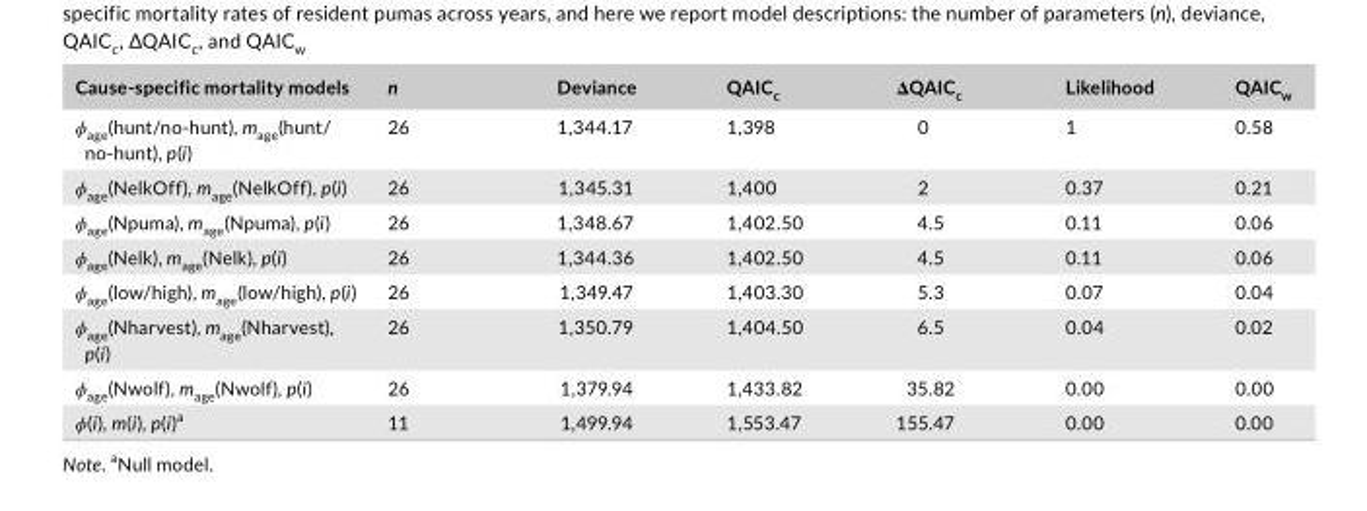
<table><thead><tr><td>Cause- specific mortality models</td><td>n</td><td>Deviance</td><td>QAIC<sub>c</sub></td><td>ΔQAIC<sub>c</sub></td><td>Likelihood</td><td>QAIC<sub>w</sub></td></tr></thead><tbody><tr><td>ϕ<sub>age</sub>(hunt/no- hunt), m<sub>age</sub>(hunt/ no- hunt), p(i)</td><td>26</td><td>1,344.17</td><td>1,398</td><td>0</td><td>1</td><td>0.58</td></tr><tr><td>ϕ<sub>age</sub>(NelkOff), m<sub>age</sub>(NelkOff), p(i)</td><td>26</td><td>1,345.31</td><td>1,400</td><td>2</td><td>0.37</td><td>0.21</td></tr><tr><td>ϕ<sub>age</sub>(Npuma), m<sub>age</sub>(Npuma), p(i)</td><td>26</td><td>1,348.67</td><td>1,402.50</td><td>4.5</td><td>0.11</td><td>0.06</td></tr><tr><td>ϕ<sub>age</sub>(Nelk), m<sub>age</sub>(Nelk), p(i)</td><td>26</td><td>1,344.36</td><td>1,402.50</td><td>4.5</td><td>0.11</td><td>0.06</td></tr><tr><td>ϕ<sub>age</sub>(low/high), m<sub>age</sub>(low/high), p(i)</td><td>26</td><td>1,349.47</td><td>1,403.30</td><td>5.3</td><td>0.07</td><td>0.04</td></tr><tr><td>ϕ<sub>age</sub>(Nharvest), m<sub>age</sub>(Nharvest), p(i)</td><td>26</td><td>1,350.79</td><td>1,404.50</td><td>6.5</td><td>0.04</td><td>0.02</td></tr><tr><td>ϕ<sub>age</sub>(Nwolf), m<sub>age</sub>(Nwolf), p(i)</td><td>26</td><td>1,379.94</td><td>1,433.82</td><td>35.82</td><td>0.00</td><td>0.00</td></tr><tr><td>ϕ(i), m(i), p(i)<sup>a</sup></td><td>11</td><td>1,499.94</td><td>1,553.47</td><td>155.47</td><td>0.00</td><td>0.00</td></tr></tbody></table>